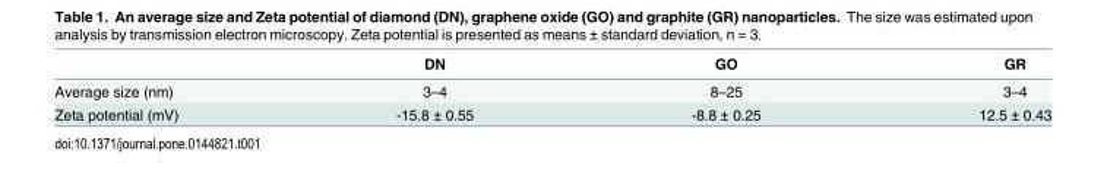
<table><thead><tr><td></td><td>DN</td><td>GO</td><td>GR</td></tr></thead><tbody><tr><td>Average size (nm)</td><td>3–4</td><td>8–25</td><td>3–4</td></tr><tr><td>Zeta potential (mV)</td><td>-15.8 ± 0.55</td><td>-8.8 ± 0.25</td><td>12.5 ± 0.43</td></tr></tbody></table>